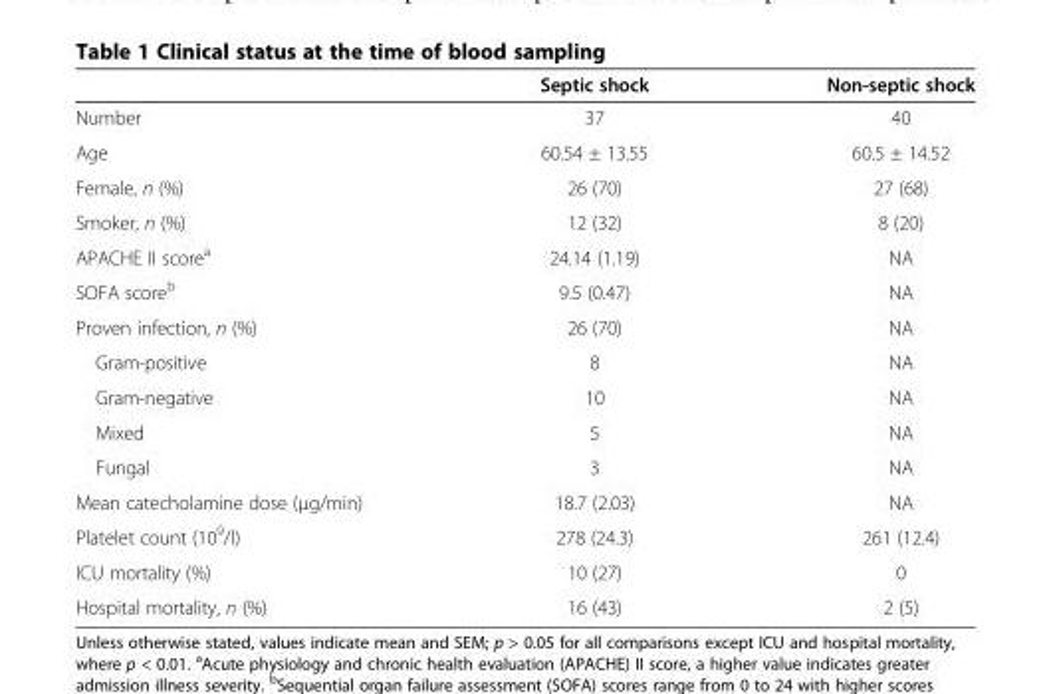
<table><thead><tr><td></td><td>Septic shock</td><td>Non-septic shock</td></tr></thead><tbody><tr><td>Number</td><td>37</td><td>40</td></tr><tr><td>Age</td><td>60.54 ± 13.55</td><td>60.5 ± 14.52</td></tr><tr><td>Female, n (%)</td><td>26 (70)</td><td>27 (68)</td></tr><tr><td>Smoker, n (%)</td><td>12 (32)</td><td>8 (20)</td></tr><tr><td>APACHE II score<sup>a</sup></td><td>24.14 (1.19)</td><td>NA</td></tr><tr><td>SOFA score<sup>b</sup></td><td>9.5 (0.47)</td><td>NA</td></tr><tr><td>Proven infection, n (%)</td><td>26 (70)</td><td>NA</td></tr><tr><td>Gram-positive</td><td>8</td><td>NA</td></tr><tr><td>Gram-negative</td><td>10</td><td>NA</td></tr><tr><td>Mixed</td><td>5</td><td>NA</td></tr><tr><td>Fungal</td><td>3</td><td>NA</td></tr><tr><td>Mean catecholamine dose (μg/min)</td><td>18.7 (2.03)</td><td>NA</td></tr><tr><td>Platelet count (10<sup>9</sup>/l)</td><td>278 (24.3)</td><td>261 (12.4)</td></tr><tr><td>ICU mortality (%)</td><td>10 (27)</td><td>0</td></tr><tr><td>Hospital mortality, n (%)</td><td>16 (43)</td><td>2 (5)</td></tr></tbody></table>